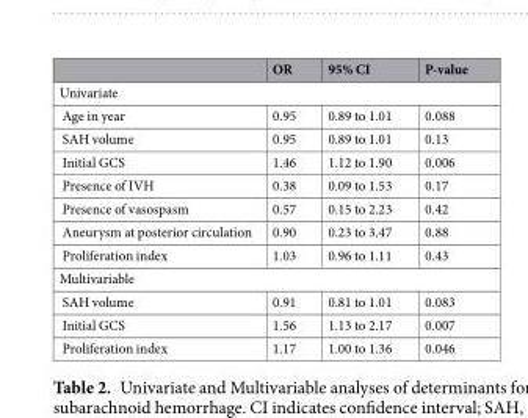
<table><thead><tr><td></td><td>OR</td><td>95% CI</td><td>P-value</td></tr></thead><tbody><tr><td colspan="4">Univariate</td></tr><tr><td>Age in year</td><td>0.95</td><td>0.89 to 1.01</td><td>0.088</td></tr><tr><td>SAH volume</td><td>0.95</td><td>0.89 to 1.01</td><td>0.13</td></tr><tr><td>Initial GCS</td><td>1.46</td><td>1.12 to 1.90</td><td>0.006</td></tr><tr><td>Presence of IVH</td><td>0.38</td><td>0.09 to 1.53</td><td>0.17</td></tr><tr><td>Presence of vasospasm</td><td>0.57</td><td>0.15 to 2.23</td><td>0.42</td></tr><tr><td>Aneurysm at posterior circulation</td><td>0.90</td><td>0.23 to 3.47</td><td>0.88</td></tr><tr><td>Proliferation index</td><td>1.03</td><td>0.96 to 1.11</td><td>0.43</td></tr><tr><td colspan="4">Multivariable</td></tr><tr><td>SAH volume</td><td>0.91</td><td>0.81 to 1.01</td><td>0.083</td></tr><tr><td>Initial GCS</td><td>1.56</td><td>1.13 to 2.17</td><td>0.007</td></tr><tr><td>Proliferation index</td><td>1.17</td><td>1.00 to 1.36</td><td>0.046</td></tr></tbody></table>